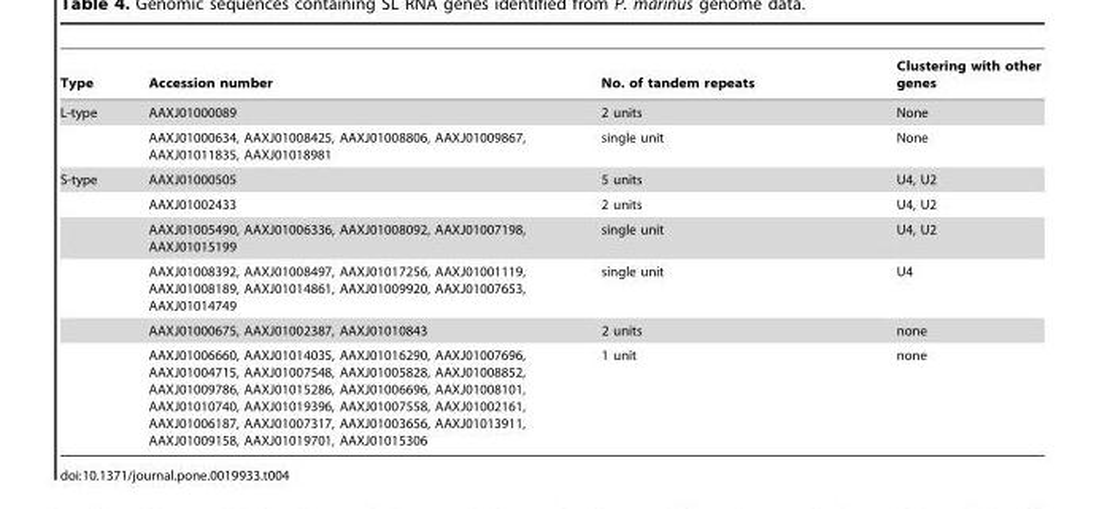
<table><thead><tr><td>Type</td><td>Accession number</td><td>No. of tandem repeats</td><td>Clustering with other genes</td></tr></thead><tbody><tr><td rowspan="2">L-type</td><td>AAXJ01000089</td><td>2 units</td><td>None</td></tr><tr><td>AAXJ01000634, AAXJ01008425, AAXJ01008806, AAXJ01009867, AAXJ01011835, AAXJ01018981</td><td>single unit</td><td>None</td></tr><tr><td rowspan="6">S-type</td><td>AAXJ01000505</td><td>5 units</td><td>U4, U2</td></tr><tr><td>AAXJ01002433</td><td>2 units</td><td>U4, U2</td></tr><tr><td>AAXJ01005490, AAXJ01006336, AAXJ01008092, AAXJ01007198, AAXJ01015199</td><td>single unit</td><td>U4, U2</td></tr><tr><td>AAXJ01008392, AAXJ01008497, AAXJ01017256, AAXJ01001119, AAXJ01008189, AAXJ01014861, AAXJ01009920, AAXJ01007653, AAXJ01014749</td><td>single unit</td><td>U4</td></tr><tr><td>AAXJ01000675, AAXJ01002387, AAXJ01010843</td><td>2 units</td><td>none</td></tr><tr><td>AAXJ01006660, AAXJ01014035, AAXJ01016290, AAXJ01007696, AAXJ01004715, AAXJ01007548, AAXJ01005828, AAXJ01008852, AAXJ01009786, AAXJ01015286, AAXJ01006696, AAXJ01008101, AAXJ01010740, AAXJ01019396, AAXJ01007558, AAXJ01002161, AAXJ01006187, AAXJ01007317, AAXJ01003656, AAXJ01013911, AAXJ01009158, AAXJ01019701, AAXJ01015306</td><td>1 unit</td><td>none</td></tr></tbody></table>